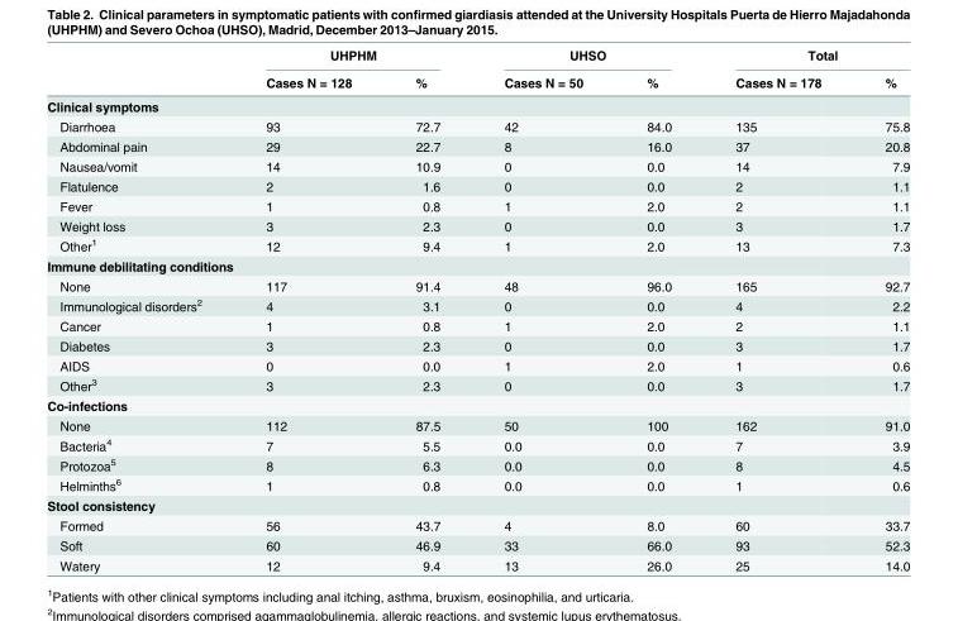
<table><thead><tr><td rowspan="2"></td><td colspan="2">UHPHM</td><td colspan="2">UHSO</td><td colspan="2">Total</td></tr><tr><td>Cases N = 128</td><td>%</td><td>Cases N = 50</td><td>%</td><td>Cases N = 178</td><td>%</td></tr></thead><tbody><tr><td colspan="7">Clinical symptoms</td></tr><tr><td>Diarrhoea</td><td>93</td><td>72.7</td><td>42</td><td>84.0</td><td>135</td><td>75.8</td></tr><tr><td>Abdominal pain</td><td>29</td><td>22.7</td><td>8</td><td>16.0</td><td>37</td><td>20.8</td></tr><tr><td>Nausea/vomit</td><td>14</td><td>10.9</td><td>0</td><td>0.0</td><td>14</td><td>7.9</td></tr><tr><td>Flatulence</td><td>2</td><td>1.6</td><td>0</td><td>0.0</td><td>2</td><td>1.1</td></tr><tr><td>Fever</td><td>1</td><td>0.8</td><td>1</td><td>2.0</td><td>2</td><td>1.1</td></tr><tr><td>Weight loss</td><td>3</td><td>2.3</td><td>0</td><td>0.0</td><td>3</td><td>1.7</td></tr><tr><td>Other<sup>1</sup></td><td>12</td><td>9.4</td><td>1</td><td>2.0</td><td>13</td><td>7.3</td></tr><tr><td colspan="7">Immune debilitating conditions</td></tr><tr><td>None</td><td>117</td><td>91.4</td><td>48</td><td>96.0</td><td>165</td><td>92.7</td></tr><tr><td>Immunological disorders<sup>2</sup></td><td>4</td><td>3.1</td><td>0</td><td>0.0</td><td>4</td><td>2.2</td></tr><tr><td>Cancer</td><td>1</td><td>0.8</td><td>1</td><td>2.0</td><td>2</td><td>1.1</td></tr><tr><td>Diabetes</td><td>3</td><td>2.3</td><td>0</td><td>0.0</td><td>3</td><td>1.7</td></tr><tr><td>AIDS</td><td>0</td><td>0.0</td><td>1</td><td>2.0</td><td>1</td><td>0.6</td></tr><tr><td>Other<sup>3</sup></td><td>3</td><td>2.3</td><td>0</td><td>0.0</td><td>3</td><td>1.7</td></tr><tr><td colspan="7">Co-infections</td></tr><tr><td>None</td><td>112</td><td>87.5</td><td>50</td><td>100</td><td>162</td><td>91.0</td></tr><tr><td>Bacteria<sup>4</sup></td><td>7</td><td>5.5</td><td>0.0</td><td>0.0</td><td>7</td><td>3.9</td></tr><tr><td>Protozoa<sup>5</sup></td><td>8</td><td>6.3</td><td>0.0</td><td>0.0</td><td>8</td><td>4.5</td></tr><tr><td>Helminths<sup>6</sup></td><td>1</td><td>0.8</td><td>0.0</td><td>0.0</td><td>1</td><td>0.6</td></tr><tr><td colspan="7">Stool consistency</td></tr><tr><td>Formed</td><td>56</td><td>43.7</td><td>4</td><td>8.0</td><td>60</td><td>33.7</td></tr><tr><td>Soft</td><td>60</td><td>46.9</td><td>33</td><td>66.0</td><td>93</td><td>52.3</td></tr><tr><td>Watery</td><td>12</td><td>9.4</td><td>13</td><td>26.0</td><td>25</td><td>14.0</td></tr></tbody></table>